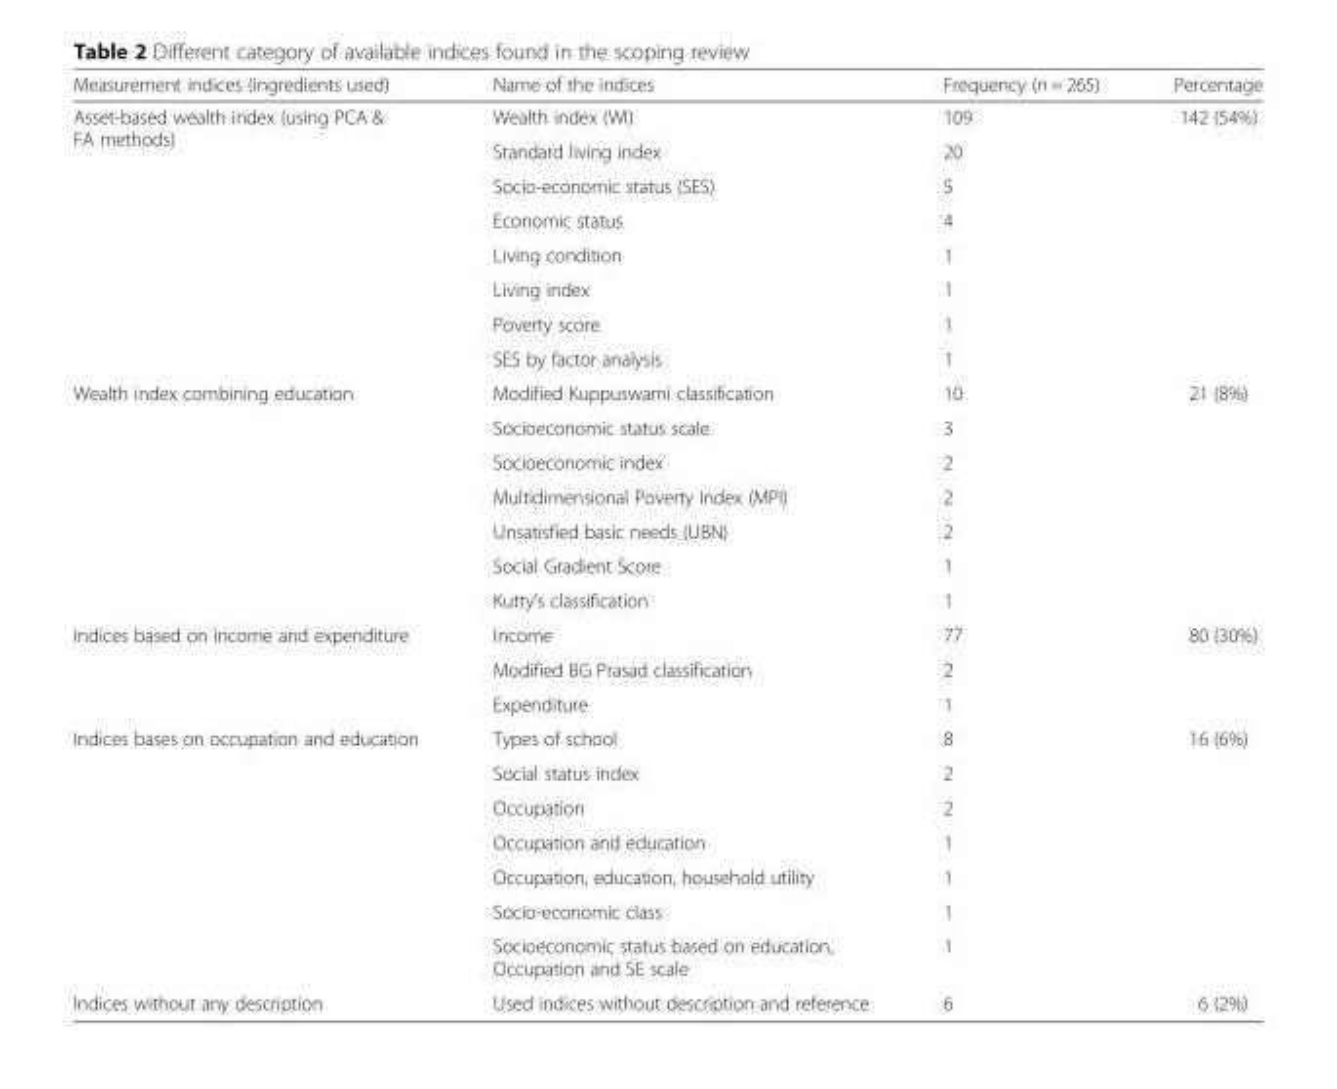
<table><thead><tr><td>Measurement indices (ingredients used)</td><td>Name of the indices</td><td>Frequency (n = 265)</td><td>Percentage</td></tr></thead><tbody><tr><td rowspan="8">Asset-based wealth index (using PCA &amp; FA methods)</td><td>Wealth index (WI)</td><td>109</td><td rowspan="8">142 (54%)</td></tr><tr><td>Standard living index</td><td>20</td></tr><tr><td>Socio-economic status (SES)</td><td>5</td></tr><tr><td>Economic status</td><td>4</td></tr><tr><td>Living condition</td><td>1</td></tr><tr><td>Living index</td><td>1</td></tr><tr><td>Poverty score</td><td>1</td></tr><tr><td>SES by factor analysis</td><td>1</td></tr><tr><td rowspan="7">Wealth index combining education</td><td>Modified Kuppuswami classification</td><td>10</td><td rowspan="7">21 (8%)</td></tr><tr><td>Socioeconomic status scale</td><td>3</td></tr><tr><td>Socioeconomic index</td><td>2</td></tr><tr><td>Multidimensional Poverty Index (MPI)</td><td>2</td></tr><tr><td>Unsatisfied basic needs (UBN)</td><td>2</td></tr><tr><td>Social Gradient Score</td><td>1</td></tr><tr><td>Kutty’s classification</td><td>1</td></tr><tr><td rowspan="3">Indices based on income and expenditure</td><td>Income</td><td>77</td><td rowspan="3">80 (30%)</td></tr><tr><td>Modified BG Prasad classification</td><td>2</td></tr><tr><td>Expenditure</td><td>1</td></tr><tr><td rowspan="7">Indices bases on occupation and education</td><td>Types of school</td><td>8</td><td rowspan="7">16 (6%)</td></tr><tr><td>Social status index</td><td>2</td></tr><tr><td>Occupation</td><td>2</td></tr><tr><td>Occupation and education</td><td>1</td></tr><tr><td>Occupation, education, household utility</td><td>1</td></tr><tr><td>Socio-economic class</td><td>1</td></tr><tr><td>Socioeconomic status based on education, Occupation and SE scale</td><td>1</td></tr><tr><td>Indices without any description</td><td>Used indices without description and reference</td><td>6</td><td>6 (2%)</td></tr></tbody></table>